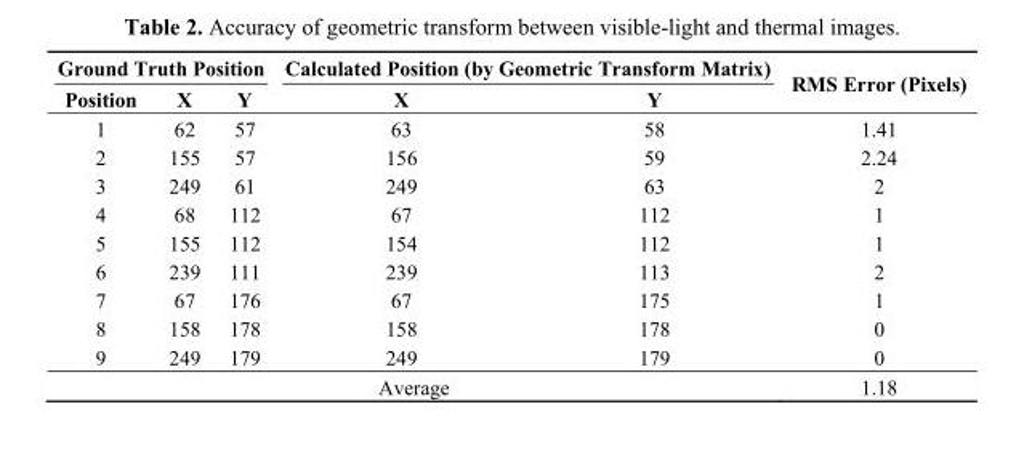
<table><thead><tr><td colspan="3">Ground Truth Position</td><td colspan="2">Calculated Position (by Geometric Transform Matrix)</td><td rowspan="2">RMS Error (Pixels)</td></tr><tr><td>Position</td><td>X</td><td>Y</td><td>X</td><td>Y</td></tr></thead><tbody><tr><td>1</td><td>62</td><td>57</td><td>63</td><td>58</td><td>1.41</td></tr><tr><td>2</td><td>155</td><td>57</td><td>156</td><td>59</td><td>2.24</td></tr><tr><td>3</td><td>249</td><td>61</td><td>249</td><td>63</td><td>2</td></tr><tr><td>4</td><td>68</td><td>112</td><td>67</td><td>112</td><td>1</td></tr><tr><td>5</td><td>155</td><td>112</td><td>154</td><td>112</td><td>1</td></tr><tr><td>6</td><td>239</td><td>111</td><td>239</td><td>113</td><td>2</td></tr><tr><td>7</td><td>67</td><td>176</td><td>67</td><td>175</td><td>1</td></tr><tr><td>8</td><td>158</td><td>178</td><td>158</td><td>178</td><td>0</td></tr><tr><td>9</td><td>249</td><td>179</td><td>249</td><td>179</td><td>0</td></tr><tr><td colspan="5">Average</td><td>1.18</td></tr></tbody></table>